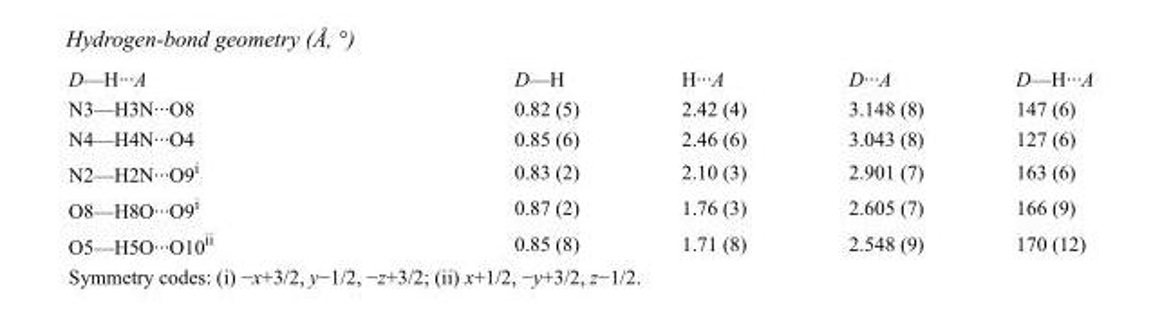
<table><tbody><tr><td>D—H···A</td><td>D—H</td><td>H···A</td><td>D···A</td><td>D—H···A</td></tr><tr><td>N3—H3N···O8</td><td>0.82 (5)</td><td>2.42 (4)</td><td>3.148 (8)</td><td>147 (6)</td></tr><tr><td>N4—H4N···O4</td><td>0.85 (6)</td><td>2.46 (6)</td><td>3.043 (8)</td><td>127 (6)</td></tr><tr><td>N2—H2N···O9<sup>i</sup></td><td>0.83 (2)</td><td>2.10 (3)</td><td>2.901 (7)</td><td>163 (6)</td></tr><tr><td>O8—H8O···O9<sup>i</sup></td><td>0.87 (2)</td><td>1.76 (3)</td><td>2.605 (7)</td><td>166 (9)</td></tr><tr><td>O5—H5O···O10<sup>ii</sup></td><td>0.85 (8)</td><td>1.71 (8)</td><td>2.548 (9)</td><td>170 (12)</td></tr></tbody></table>